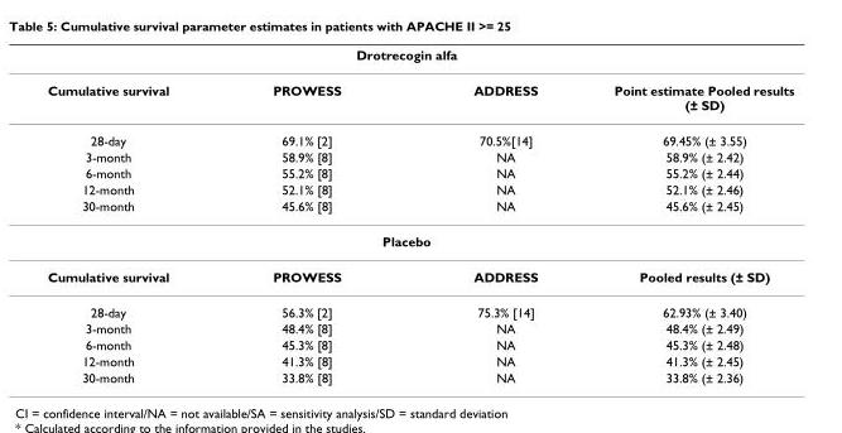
<table><thead><tr><td colspan="4">Drotrecogin alfa</td></tr><tr><td>Cumulative survival</td><td>PROWESS</td><td>ADDRESS</td><td>Point estimate Pooled results (± SD)</td></tr></thead><tbody><tr><td>28-day</td><td>69.1% [2]</td><td>70.5%[14]</td><td>69.45% (± 3.55)</td></tr><tr><td>3-month</td><td>58.9% [8]</td><td>NA</td><td>58.9% (± 2.42)</td></tr><tr><td>6-month</td><td>55.2% [8]</td><td>NA</td><td>55.2% (± 2.44)</td></tr><tr><td>12-month</td><td>52.1% [8]</td><td>NA</td><td>52.1% (± 2.46)</td></tr><tr><td>30-month</td><td>45.6% [8]</td><td>NA</td><td>45.6% (± 2.45)</td></tr><tr><td colspan="4">Placebo</td></tr><tr><td>Cumulative survival</td><td>PROWESS</td><td>ADDRESS</td><td>Pooled results (± SD)</td></tr><tr><td>28-day</td><td>56.3% [2]</td><td>75.3% [14]</td><td>62.93% (± 3.40)</td></tr><tr><td>3-month</td><td>48.4% [8]</td><td>NA</td><td>48.4% (± 2.49)</td></tr><tr><td>6-month</td><td>45.3% [8]</td><td>NA</td><td>45.3% (± 2.48)</td></tr><tr><td>12-month</td><td>41.3% [8]</td><td>NA</td><td>41.3% (± 2.45)</td></tr><tr><td>30-month</td><td>33.8% [8]</td><td>NA</td><td>33.8% (± 2.36)</td></tr></tbody></table>